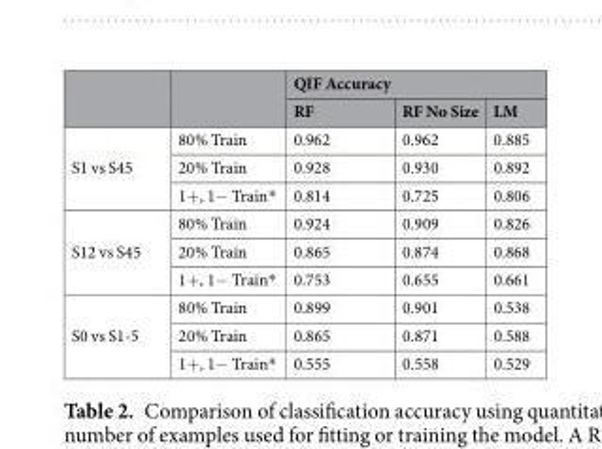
<table><thead><tr><td rowspan="2"></td><td rowspan="2"></td><td colspan="3">QIF Accuracy</td></tr><tr><td>RF</td><td>RF No Size</td><td>LM</td></tr></thead><tbody><tr><td rowspan="3">S1 vs S45</td><td>80% Train</td><td>0.962</td><td>0.962</td><td>0.885</td></tr><tr><td>20% Train</td><td>0.928</td><td>0.930</td><td>0.892</td></tr><tr><td>1+, 1− Train*</td><td>0.814</td><td>0.725</td><td>0.806</td></tr><tr><td rowspan="3">S12 vs S45</td><td>80% Train</td><td>0.924</td><td>0.909</td><td>0.826</td></tr><tr><td>20% Train</td><td>0.865</td><td>0.874</td><td>0.868</td></tr><tr><td>1+, 1− Train*</td><td>0.753</td><td>0.655</td><td>0.661</td></tr><tr><td rowspan="3">S0 vs S1-5</td><td>80% Train</td><td>0.899</td><td>0.901</td><td>0.538</td></tr><tr><td>20% Train</td><td>0.865</td><td>0.871</td><td>0.588</td></tr><tr><td>1+, 1− Train*</td><td>0.555</td><td>0.558</td><td>0.529</td></tr></tbody></table>